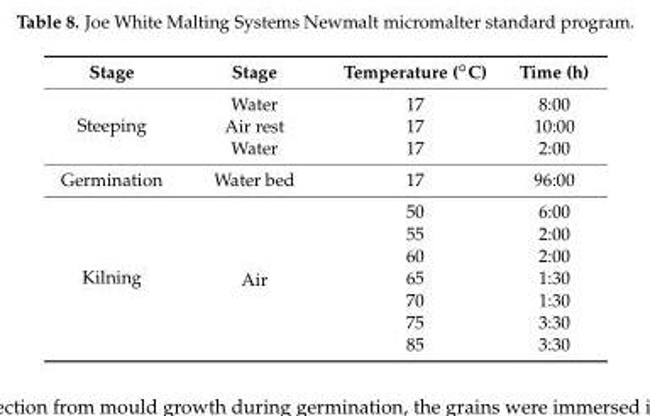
<table><thead><tr><td>Stage</td><td>Stage</td><td>Temperature (◦C)</td><td>Time (h)</td></tr></thead><tbody><tr><td rowspan="3">Steeping</td><td>Water</td><td>17</td><td>8:00</td></tr><tr><td>Air rest</td><td>17</td><td>10:00</td></tr><tr><td>Water</td><td>17</td><td>2:00</td></tr><tr><td>Germination</td><td>Water bed</td><td>17</td><td>96:00</td></tr><tr><td rowspan="7">Kilning</td><td rowspan="7">Air</td><td>50</td><td>6:00</td></tr><tr><td>55</td><td>2:00</td></tr><tr><td>60</td><td>2:00</td></tr><tr><td>65</td><td>1:30</td></tr><tr><td>70</td><td>1:30</td></tr><tr><td>75</td><td>3:30</td></tr><tr><td>85</td><td>3:30</td></tr></tbody></table>